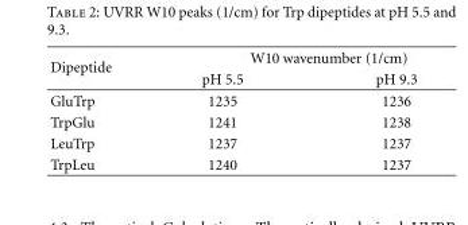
<table><thead><tr><td rowspan="2">Dipeptide</td><td colspan="2">W10 wavenumber (1/cm)</td></tr><tr><td>pH 5.5</td><td>pH 9.3</td></tr></thead><tbody><tr><td>GluTrp</td><td>1235</td><td>1236</td></tr><tr><td>TrpGlu</td><td>1241</td><td>1238</td></tr><tr><td>LeuTrp</td><td>1237</td><td>1237</td></tr><tr><td>TrpLeu</td><td>1240</td><td>1237</td></tr></tbody></table>